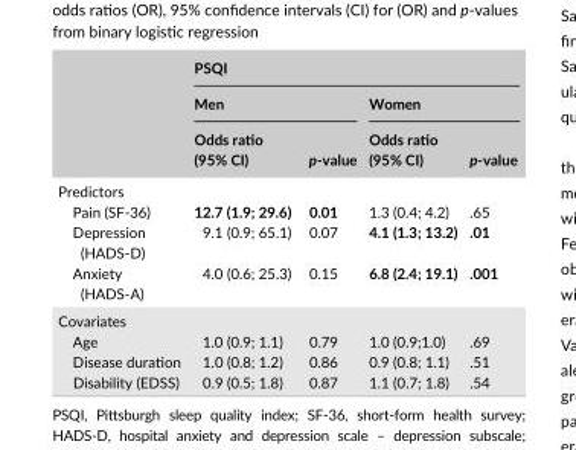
<table><thead><tr><td rowspan="3"></td><td colspan="4">PSQI</td></tr><tr><td colspan="2">Men</td><td colspan="2">Women</td></tr><tr><td>Odds ratio (95% CI)</td><td>p- value</td><td>Odds ratio (95% CI)</td><td>p- value</td></tr></thead><tbody><tr><td colspan="5">Predictors</td></tr><tr><td>Pain (SF- 36)</td><td>12.7 (1.9; 29.6)</td><td>0.01</td><td>1.3 (0.4; 4.2)</td><td>.65</td></tr><tr><td>Depression (HADS- D)</td><td>9.1 (0.9; 65.1)</td><td>0.07</td><td>4.1 (1.3; 13.2)</td><td>.01</td></tr><tr><td>Anxiety (HADS- A)</td><td>4.0 (0.6; 25.3)</td><td>0.15</td><td>6.8 (2.4; 19.1)</td><td>.001</td></tr><tr><td colspan="5">Covariates</td></tr><tr><td>Age</td><td>1.0 (0.9; 1.1)</td><td>0.79</td><td>1.0 (0.9;1.0)</td><td>.69</td></tr><tr><td>Disease duration</td><td>1.0 (0.8; 1.2)</td><td>0.86</td><td>0.9 (0.8; 1.1)</td><td>.51</td></tr><tr><td>Disability (EDSS)</td><td>0.9 (0.5; 1.8)</td><td>0.87</td><td>1.1 (0.7; 1.8)</td><td>.54</td></tr></tbody></table>